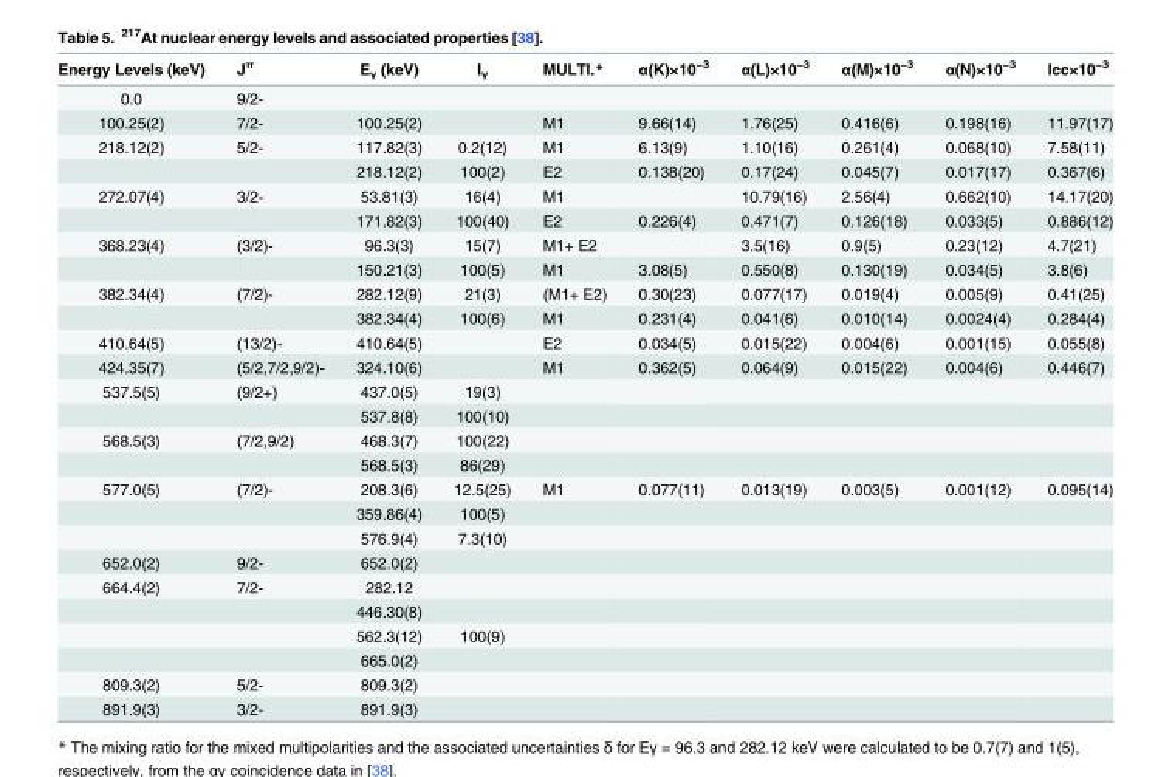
<table><thead><tr><td>Energy Levels (keV)</td><td>J<sup>π</sup></td><td>E<sub>γ</sub> (keV)</td><td>I<sub>γ</sub></td><td>MULTI.*</td><td>α(K)×10<sup>−3</sup></td><td>α(L)×10<sup>−3</sup></td><td>α(M)×10<sup>−3</sup></td><td>α(N)×10<sup>−3</sup></td><td>Icc×10<sup>−3</sup></td></tr></thead><tbody><tr><td>0.0</td><td>9/2-</td><td></td><td></td><td></td><td></td><td></td><td></td><td></td><td></td></tr><tr><td>100.25(2)</td><td>7/2-</td><td>100.25(2)</td><td></td><td>M1</td><td>9.66(14)</td><td>1.76(25)</td><td>0.416(6)</td><td>0.198(16)</td><td>11.97(17)</td></tr><tr><td rowspan="2">218.12(2)</td><td>5/2-</td><td>117.82(3)</td><td>0.2(12)</td><td>M1</td><td>6.13(9)</td><td>1.10(16)</td><td>0.261(4)</td><td>0.068(10)</td><td>7.58(11)</td></tr><tr><td></td><td>218.12(2)</td><td>100(2)</td><td>E2</td><td>0.138(20)</td><td>0.17(24)</td><td>0.045(7)</td><td>0.017(17)</td><td>0.367(6)</td></tr><tr><td rowspan="2">272.07(4)</td><td>3/2-</td><td>53.81(3)</td><td>16(4)</td><td>M1</td><td></td><td>10.79(16)</td><td>2.56(4)</td><td>0.662(10)</td><td>14.17(20)</td></tr><tr><td></td><td>171.82(3)</td><td>100(40)</td><td>E2</td><td>0.226(4)</td><td>0.471(7)</td><td>0.126(18)</td><td>0.033(5)</td><td>0.886(12)</td></tr><tr><td rowspan="2">368.23(4)</td><td>(3/2)-</td><td>96.3(3)</td><td>15(7)</td><td>M1+ E2</td><td></td><td>3.5(16)</td><td>0.9(5)</td><td>0.23(12)</td><td>4.7(21)</td></tr><tr><td></td><td>150.21(3)</td><td>100(5)</td><td>M1</td><td>3.08(5)</td><td>0.550(8)</td><td>0.130(19)</td><td>0.034(5)</td><td>3.8(6)</td></tr><tr><td rowspan="2">382.34(4)</td><td>(7/2)-</td><td>282.12(9)</td><td>21(3)</td><td>(M1+ E2)</td><td>0.30(23)</td><td>0.077(17)</td><td>0.019(4)</td><td>0.005(9)</td><td>0.41(25)</td></tr><tr><td></td><td>382.34(4)</td><td>100(6)</td><td>M1</td><td>0.231(4)</td><td>0.041(6)</td><td>0.010(14)</td><td>0.0024(4)</td><td>0.284(4)</td></tr><tr><td>410.64(5)</td><td>(13/2)-</td><td>410.64(5)</td><td></td><td>E2</td><td>0.034(5)</td><td>0.015(22)</td><td>0.004(6)</td><td>0.001(15)</td><td>0.055(8)</td></tr><tr><td>424.35(7)</td><td>(5/2,7/2,9/2)-</td><td>324.10(6)</td><td></td><td>M1</td><td>0.362(5)</td><td>0.064(9)</td><td>0.015(22)</td><td>0.004(6)</td><td>0.446(7)</td></tr><tr><td rowspan="2">537.5(5)</td><td>(9/2+)</td><td>437.0(5)</td><td>19(3)</td><td></td><td></td><td></td><td></td><td></td><td></td></tr><tr><td></td><td>537.8(8)</td><td>100(10)</td><td></td><td></td><td></td><td></td><td></td><td></td></tr><tr><td rowspan="2">568.5(3)</td><td>(7/2,9/2)</td><td>468.3(7)</td><td>100(22)</td><td></td><td></td><td></td><td></td><td></td><td></td></tr><tr><td></td><td>568.5(3)</td><td>86(29)</td><td></td><td></td><td></td><td></td><td></td><td></td></tr><tr><td rowspan="3">577.0(5)</td><td>(7/2)-</td><td>208.3(6)</td><td>12.5(25)</td><td>M1</td><td>0.077(11)</td><td>0.013(19)</td><td>0.003(5)</td><td>0.001(12)</td><td>0.095(14)</td></tr><tr><td></td><td>359.86(4)</td><td>100(5)</td><td></td><td></td><td></td><td></td><td></td><td></td></tr><tr><td></td><td>576.9(4)</td><td>7.3(10)</td><td></td><td></td><td></td><td></td><td></td><td></td></tr><tr><td>652.0(2)</td><td>9/2-</td><td>652.0(2)</td><td></td><td></td><td></td><td></td><td></td><td></td><td></td></tr><tr><td rowspan="4">664.4(2)</td><td>7/2-</td><td>282.12</td><td></td><td></td><td></td><td></td><td></td><td></td><td></td></tr><tr><td></td><td>446.30(8)</td><td></td><td></td><td></td><td></td><td></td><td></td><td></td></tr><tr><td></td><td>562.3(12)</td><td>100(9)</td><td></td><td></td><td></td><td></td><td></td><td></td></tr><tr><td></td><td>665.0(2)</td><td></td><td></td><td></td><td></td><td></td><td></td><td></td></tr><tr><td>809.3(2)</td><td>5/2-</td><td>809.3(2)</td><td></td><td></td><td></td><td></td><td></td><td></td><td></td></tr><tr><td>891.9(3)</td><td>3/2-</td><td>891.9(3)</td><td></td><td></td><td></td><td></td><td></td><td></td><td></td></tr></tbody></table>